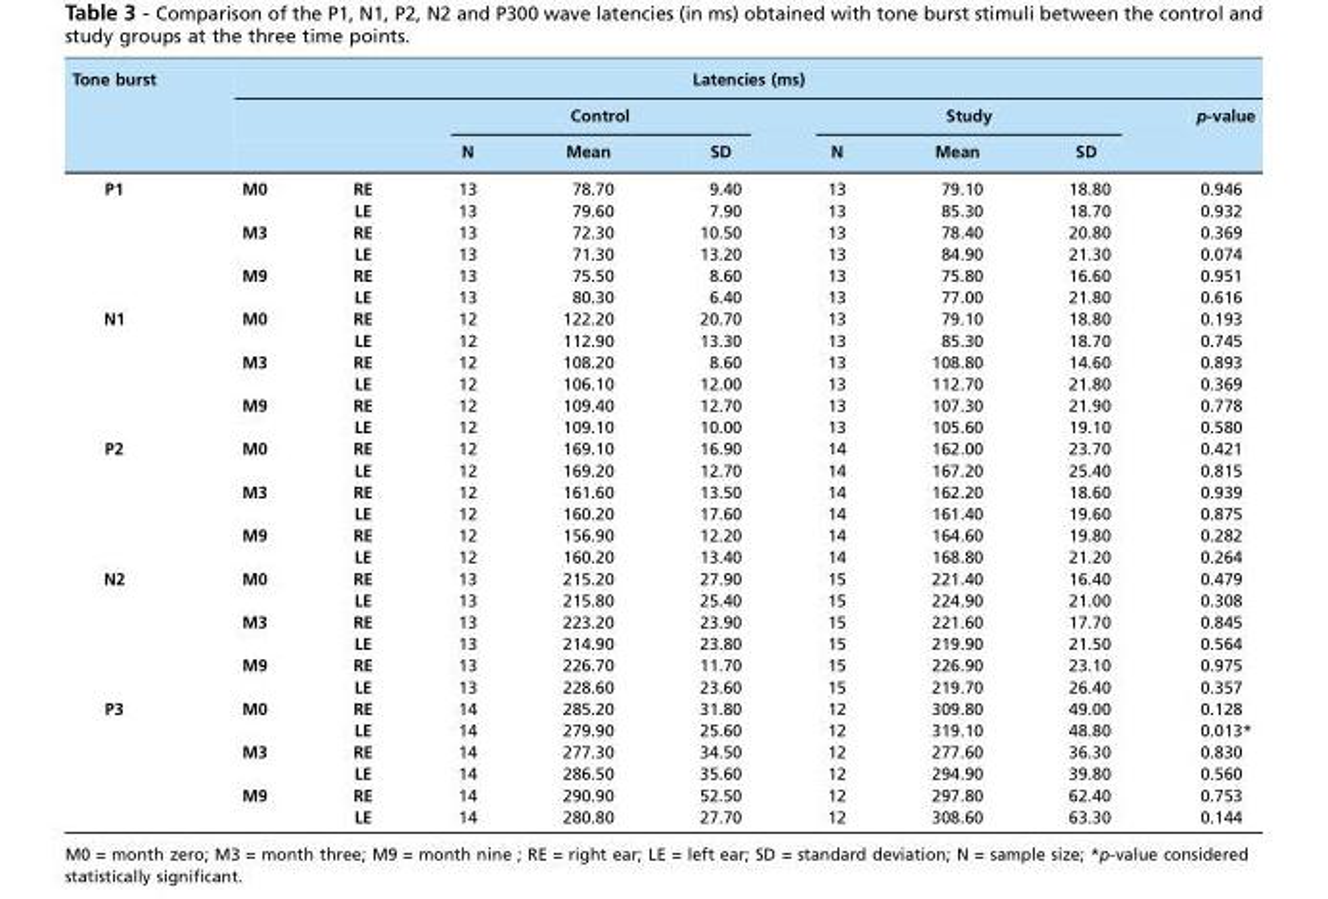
<table><thead><tr><td rowspan="3">Tone burst</td><td colspan="9">Latencies (ms)</td></tr><tr><td rowspan="2"></td><td rowspan="2"></td><td colspan="3">Control</td><td colspan="3">Study</td><td rowspan="2">p-value</td></tr><tr><td>N</td><td>Mean</td><td>SD</td><td>N</td><td>Mean</td><td>SD</td></tr></thead><tbody><tr><td rowspan="6">P1</td><td rowspan="2">M0</td><td>RE</td><td>13</td><td>78.70</td><td>9.40</td><td>13</td><td>79.10</td><td>18.80</td><td>0.946</td></tr><tr><td>LE</td><td>13</td><td>79.60</td><td>7.90</td><td>13</td><td>85.30</td><td>18.70</td><td>0.932</td></tr><tr><td rowspan="2">M3</td><td>RE</td><td>13</td><td>72.30</td><td>10.50</td><td>13</td><td>78.40</td><td>20.80</td><td>0.369</td></tr><tr><td>LE</td><td>13</td><td>71.30</td><td>13.20</td><td>13</td><td>84.90</td><td>21.30</td><td>0.074</td></tr><tr><td rowspan="2">M9</td><td>RE</td><td>13</td><td>75.50</td><td>8.60</td><td>13</td><td>75.80</td><td>16.60</td><td>0.951</td></tr><tr><td>LE</td><td>13</td><td>80.30</td><td>6.40</td><td>13</td><td>77.00</td><td>21.80</td><td>0.616</td></tr><tr><td rowspan="6">N1</td><td rowspan="2">M0</td><td>RE</td><td>12</td><td>122.20</td><td>20.70</td><td>13</td><td>79.10</td><td>18.80</td><td>0.193</td></tr><tr><td>LE</td><td>12</td><td>112.90</td><td>13.30</td><td>13</td><td>85.30</td><td>18.70</td><td>0.745</td></tr><tr><td rowspan="2">M3</td><td>RE</td><td>12</td><td>108.20</td><td>8.60</td><td>13</td><td>108.80</td><td>14.60</td><td>0.893</td></tr><tr><td>LE</td><td>12</td><td>106.10</td><td>12.00</td><td>13</td><td>112.70</td><td>21.80</td><td>0.369</td></tr><tr><td rowspan="2">M9</td><td>RE</td><td>12</td><td>109.40</td><td>12.70</td><td>13</td><td>107.30</td><td>21.90</td><td>0.778</td></tr><tr><td>LE</td><td>12</td><td>109.10</td><td>10.00</td><td>13</td><td>105.60</td><td>19.10</td><td>0.580</td></tr><tr><td rowspan="6">P2</td><td rowspan="2">M0</td><td>RE</td><td>12</td><td>169.10</td><td>16.90</td><td>14</td><td>162.00</td><td>23.70</td><td>0.421</td></tr><tr><td>LE</td><td>12</td><td>169.20</td><td>12.70</td><td>14</td><td>167.20</td><td>25.40</td><td>0.815</td></tr><tr><td rowspan="2">M3</td><td>RE</td><td>12</td><td>161.60</td><td>13.50</td><td>14</td><td>162.20</td><td>18.60</td><td>0.939</td></tr><tr><td>LE</td><td>12</td><td>160.20</td><td>17.60</td><td>14</td><td>161.40</td><td>19.60</td><td>0.875</td></tr><tr><td rowspan="2">M9</td><td>RE</td><td>12</td><td>156.90</td><td>12.20</td><td>14</td><td>164.60</td><td>19.80</td><td>0.282</td></tr><tr><td>LE</td><td>12</td><td>160.20</td><td>13.40</td><td>14</td><td>168.80</td><td>21.20</td><td>0.264</td></tr><tr><td rowspan="6">N2</td><td rowspan="2">M0</td><td>RE</td><td>13</td><td>215.20</td><td>27.90</td><td>15</td><td>221.40</td><td>16.40</td><td>0.479</td></tr><tr><td>LE</td><td>13</td><td>215.80</td><td>25.40</td><td>15</td><td>224.90</td><td>21.00</td><td>0.308</td></tr><tr><td rowspan="2">M3</td><td>RE</td><td>13</td><td>223.20</td><td>23.90</td><td>15</td><td>221.60</td><td>17.70</td><td>0.845</td></tr><tr><td>LE</td><td>13</td><td>214.90</td><td>23.80</td><td>15</td><td>219.90</td><td>21.50</td><td>0.564</td></tr><tr><td rowspan="2">M9</td><td>RE</td><td>13</td><td>226.70</td><td>11.70</td><td>15</td><td>226.90</td><td>23.10</td><td>0.975</td></tr><tr><td>LE</td><td>13</td><td>228.60</td><td>23.60</td><td>15</td><td>219.70</td><td>26.40</td><td>0.357</td></tr><tr><td rowspan="6">P3</td><td rowspan="2">M0</td><td>RE</td><td>14</td><td>285.20</td><td>31.80</td><td>12</td><td>309.80</td><td>49.00</td><td>0.128</td></tr><tr><td>LE</td><td>14</td><td>279.90</td><td>25.60</td><td>12</td><td>319.10</td><td>48.80</td><td>0.013*</td></tr><tr><td rowspan="2">M3</td><td>RE</td><td>14</td><td>277.30</td><td>34.50</td><td>12</td><td>277.60</td><td>36.30</td><td>0.830</td></tr><tr><td>LE</td><td>14</td><td>286.50</td><td>35.60</td><td>12</td><td>294.90</td><td>39.80</td><td>0.560</td></tr><tr><td rowspan="2">M9</td><td>RE</td><td>14</td><td>290.90</td><td>52.50</td><td>12</td><td>297.80</td><td>62.40</td><td>0.753</td></tr><tr><td>LE</td><td>14</td><td>280.80</td><td>27.70</td><td>12</td><td>308.60</td><td>63.30</td><td>0.144</td></tr></tbody></table>